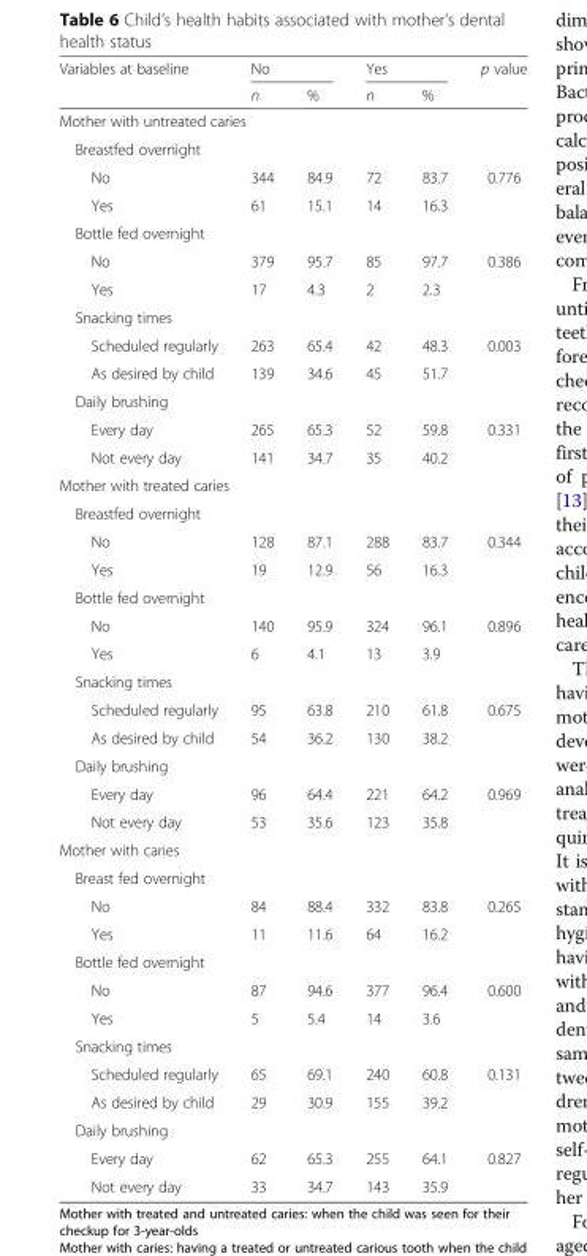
<table><thead><tr><td rowspan="2">Variables at baseline</td><td colspan="2">No</td><td colspan="2">Yes</td><td rowspan="2">p value</td></tr><tr><td>n</td><td>%</td><td>n</td><td>%</td></tr></thead><tbody><tr><td colspan="6">Mother with untreated caries</td></tr><tr><td colspan="6">Breastfed overnight</td></tr><tr><td>No</td><td>344</td><td>84.9</td><td>72</td><td>83.7</td><td rowspan="2">0.776</td></tr><tr><td>Yes</td><td>61</td><td>15.1</td><td>14</td><td>16.3</td></tr><tr><td colspan="6">Bottle fed overnight</td></tr><tr><td>No</td><td>379</td><td>95.7</td><td>85</td><td>97.7</td><td rowspan="2">0.386</td></tr><tr><td>Yes</td><td>17</td><td>4.3</td><td>2</td><td>2.3</td></tr><tr><td colspan="6">Snacking times</td></tr><tr><td>Scheduled regularly</td><td>263</td><td>65.4</td><td>42</td><td>48.3</td><td rowspan="2">0.003</td></tr><tr><td>As desired by child</td><td>139</td><td>34.6</td><td>45</td><td>51.7</td></tr><tr><td colspan="6">Daily brushing</td></tr><tr><td>Every day</td><td>265</td><td>65.3</td><td>52</td><td>59.8</td><td rowspan="2">0.331</td></tr><tr><td>Not every day</td><td>141</td><td>34.7</td><td>35</td><td>40.2</td></tr><tr><td colspan="6">Mother with treated caries</td></tr><tr><td colspan="6">Breastfed overnight</td></tr><tr><td>No</td><td>128</td><td>87.1</td><td>288</td><td>83.7</td><td rowspan="2">0.344</td></tr><tr><td>Yes</td><td>19</td><td>12.9</td><td>56</td><td>16.3</td></tr><tr><td colspan="6">Bottle fed overnight</td></tr><tr><td>No</td><td>140</td><td>95.9</td><td>324</td><td>96.1</td><td rowspan="2">0.896</td></tr><tr><td>Yes</td><td>6</td><td>4.1</td><td>13</td><td>3.9</td></tr><tr><td colspan="6">Snacking times</td></tr><tr><td>Scheduled regularly</td><td>95</td><td>63.8</td><td>210</td><td>61.8</td><td rowspan="2">0.675</td></tr><tr><td>As desired by child</td><td>54</td><td>36.2</td><td>130</td><td>38.2</td></tr><tr><td colspan="6">Daily brushing</td></tr><tr><td>Every day</td><td>96</td><td>64.4</td><td>221</td><td>64.2</td><td rowspan="2">0.969</td></tr><tr><td>Not every day</td><td>53</td><td>35.6</td><td>123</td><td>35.8</td></tr><tr><td colspan="6">Mother with caries</td></tr><tr><td colspan="6">Breast fed overnight</td></tr><tr><td>No</td><td>84</td><td>88.4</td><td>332</td><td>83.8</td><td rowspan="2">0.265</td></tr><tr><td>Yes</td><td>11</td><td>11.6</td><td>64</td><td>16.2</td></tr><tr><td colspan="6">Bottle fed overnight</td></tr><tr><td>No</td><td>87</td><td>94.6</td><td>377</td><td>96.4</td><td rowspan="2">0.600</td></tr><tr><td>Yes</td><td>5</td><td>5.4</td><td>14</td><td>3.6</td></tr><tr><td colspan="6">Snacking times</td></tr><tr><td>Scheduled regularly</td><td>65</td><td>69.1</td><td>240</td><td>60.8</td><td rowspan="2">0.131</td></tr><tr><td>As desired by child</td><td>29</td><td>30.9</td><td>155</td><td>39.2</td></tr><tr><td colspan="6">Daily brushing</td></tr><tr><td>Every day</td><td>62</td><td>65.3</td><td>255</td><td>64.1</td><td rowspan="2">0.827</td></tr><tr><td>Not every day</td><td>33</td><td>34.7</td><td>143</td><td>35.9</td></tr></tbody></table>